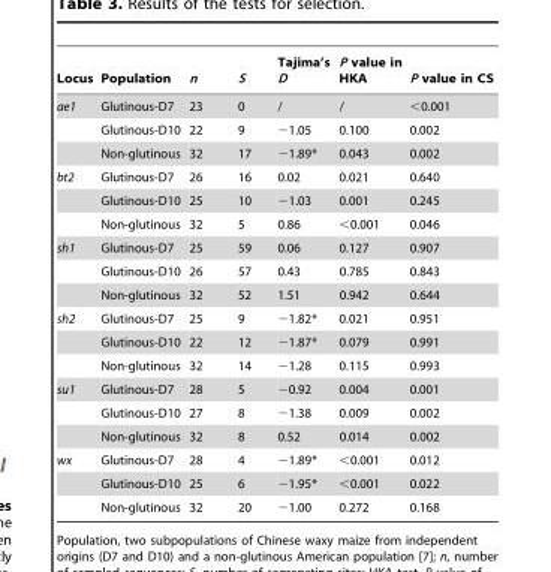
<table><thead><tr><td>Locus</td><td>Population</td><td>n</td><td>S</td><td>Tajima’s D</td><td>P value in HKA</td><td>P value in CS</td></tr></thead><tbody><tr><td rowspan="3">ae1</td><td>Glutinous-D7</td><td>23</td><td>0</td><td>/</td><td>/</td><td>&lt;0.001</td></tr><tr><td>Glutinous-D10</td><td>22</td><td>9</td><td>−1.05</td><td>0.100</td><td>0.002</td></tr><tr><td>Non-glutinous</td><td>32</td><td>17</td><td>−1.89*</td><td>0.043</td><td>0.002</td></tr><tr><td rowspan="3">bt2</td><td>Glutinous-D7</td><td>26</td><td>16</td><td>0.02</td><td>0.021</td><td>0.640</td></tr><tr><td>Glutinous-D10</td><td>25</td><td>10</td><td>−1.03</td><td>0.001</td><td>0.245</td></tr><tr><td>Non-glutinous</td><td>32</td><td>5</td><td>0.86</td><td>&lt;0.001</td><td>0.046</td></tr><tr><td rowspan="3">sh1</td><td>Glutinous-D7</td><td>25</td><td>59</td><td>0.06</td><td>0.127</td><td>0.907</td></tr><tr><td>Glutinous-D10</td><td>26</td><td>57</td><td>0.43</td><td>0.785</td><td>0.843</td></tr><tr><td>Non-glutinous</td><td>32</td><td>52</td><td>1.51</td><td>0.942</td><td>0.644</td></tr><tr><td rowspan="3">sh2</td><td>Glutinous-D7</td><td>25</td><td>9</td><td>−1.82*</td><td>0.021</td><td>0.951</td></tr><tr><td>Glutinous-D10</td><td>22</td><td>12</td><td>−1.87*</td><td>0.079</td><td>0.991</td></tr><tr><td>Non-glutinous</td><td>32</td><td>14</td><td>−1.28</td><td>0.115</td><td>0.993</td></tr><tr><td rowspan="3">su1</td><td>Glutinous-D7</td><td>28</td><td>5</td><td>−0.92</td><td>0.004</td><td>0.001</td></tr><tr><td>Glutinous-D10</td><td>27</td><td>8</td><td>−1.38</td><td>0.009</td><td>0.002</td></tr><tr><td>Non-glutinous</td><td>32</td><td>8</td><td>0.52</td><td>0.014</td><td>0.002</td></tr><tr><td rowspan="3">wx</td><td>Glutinous-D7</td><td>28</td><td>4</td><td>−1.89*</td><td>&lt;0.001</td><td>0.012</td></tr><tr><td>Glutinous-D10</td><td>25</td><td>6</td><td>−1.95*</td><td>&lt;0.001</td><td>0.022</td></tr><tr><td>Non-glutinous</td><td>32</td><td>20</td><td>−1.00</td><td>0.272</td><td>0.168</td></tr></tbody></table>